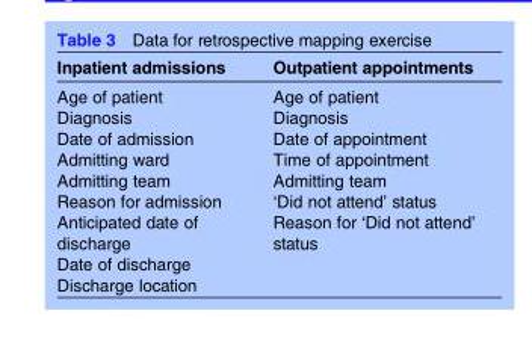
<table><thead><tr><td>Inpatient admissions</td><td>Outpatient appointments</td></tr></thead><tbody><tr><td>Age of patient</td><td>Age of patient</td></tr><tr><td>Diagnosis</td><td>Diagnosis</td></tr><tr><td>Date of admission</td><td>Date of appointment</td></tr><tr><td>Admitting ward</td><td>Time of appointment</td></tr><tr><td>Admitting team</td><td>Admitting team</td></tr><tr><td>Reason for admission</td><td>‘Did not attend’ status</td></tr><tr><td>Anticipated date of discharge</td><td>Reason for ‘Did not attend’ status</td></tr><tr><td colspan="2">Date of discharge</td></tr><tr><td>Discharge location</td><td></td></tr></tbody></table>